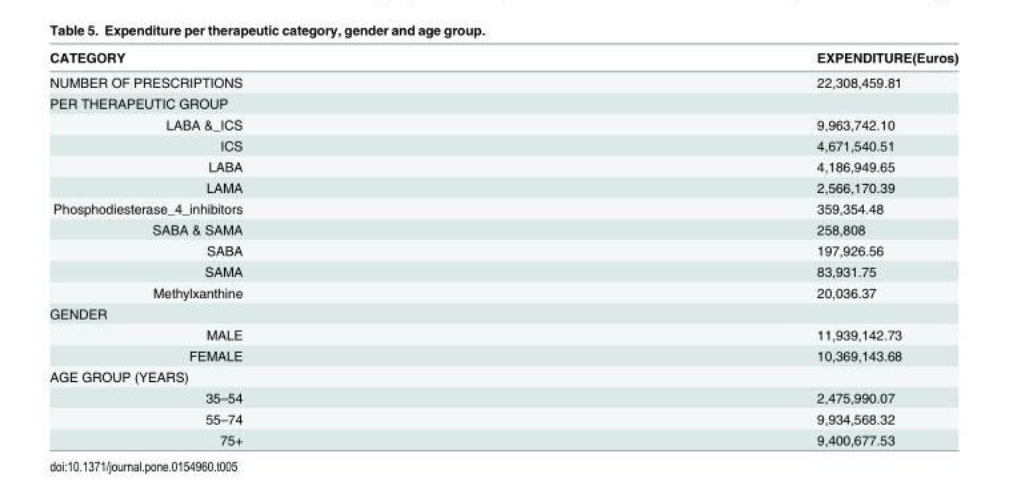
<table><thead><tr><td>CATEGORY</td><td>EXPENDITURE(Euros)</td></tr></thead><tbody><tr><td>NUMBER OF PRESCRIPTIONS</td><td>22,308,459.81</td></tr><tr><td colspan="2">PER THERAPEUTIC GROUP</td></tr><tr><td>LABA &amp;_ICS</td><td>9,963,742.10</td></tr><tr><td>ICS</td><td>4,671,540.51</td></tr><tr><td>LABA</td><td>4,186,949.65</td></tr><tr><td>LAMA</td><td>2,566,170.39</td></tr><tr><td>Phosphodiesterase_4_inhibitors</td><td>359,354.48</td></tr><tr><td>SABA &amp; SAMA</td><td>258,808</td></tr><tr><td>SABA</td><td>197,926.56</td></tr><tr><td>SAMA</td><td>83,931.75</td></tr><tr><td>Methylxanthine</td><td>20,036.37</td></tr><tr><td colspan="2">GENDER</td></tr><tr><td>MALE</td><td>11,939,142.73</td></tr><tr><td>FEMALE</td><td>10,369,143.68</td></tr><tr><td colspan="2">AGE GROUP (YEARS)</td></tr><tr><td>35–54</td><td>2,475,990.07</td></tr><tr><td>55–74</td><td>9,934,568.32</td></tr><tr><td>75+</td><td>9,400,677.53</td></tr></tbody></table>